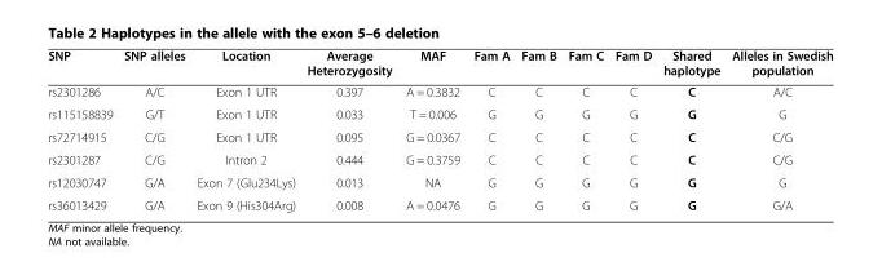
<table><thead><tr><td>SNP</td><td>SNP alleles</td><td>Location</td><td>Average Heterozygosity</td><td>MAF</td><td>Fam A</td><td>Fam B</td><td>Fam C</td><td>Fam D</td><td>Shared haplotype</td><td>Alleles in Swedish population</td></tr></thead><tbody><tr><td>rs2301286</td><td>A/C</td><td>Exon 1 UTR</td><td>0.397</td><td>A = 0.3832</td><td>C</td><td>C</td><td>C</td><td>C</td><td>C</td><td>A/C</td></tr><tr><td>rs115158839</td><td>G/T</td><td>Exon 1 UTR</td><td>0.033</td><td>T = 0.006</td><td>G</td><td>G</td><td>G</td><td>G</td><td>G</td><td>G</td></tr><tr><td>rs72714915</td><td>C/G</td><td>Exon 1 UTR</td><td>0.095</td><td>G = 0.0367</td><td>C</td><td>C</td><td>C</td><td>C</td><td>C</td><td>C/G</td></tr><tr><td>rs2301287</td><td>C/G</td><td>Intron 2</td><td>0.444</td><td>G = 0.3759</td><td>C</td><td>C</td><td>C</td><td>C</td><td>C</td><td>C/G</td></tr><tr><td>rs12030747</td><td>G/A</td><td>Exon 7 (Glu234Lys)</td><td>0.013</td><td>NA</td><td>G</td><td>G</td><td>G</td><td>G</td><td>G</td><td>G</td></tr><tr><td>rs36013429</td><td>G/A</td><td>Exon 9 (His304Arg)</td><td>0.008</td><td>A = 0.0476</td><td>G</td><td>G</td><td>G</td><td>G</td><td>G</td><td>G/A</td></tr></tbody></table>